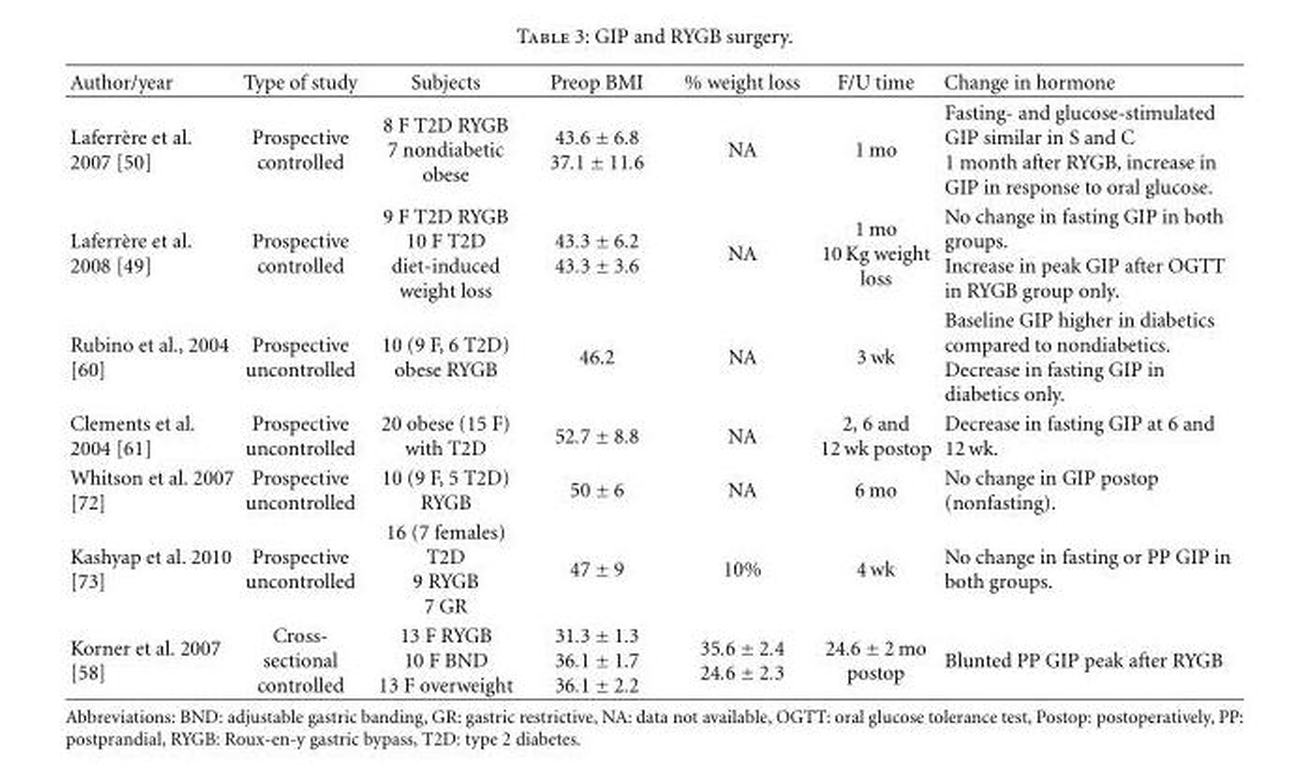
<table><thead><tr><td>Author/year</td><td>Type of study</td><td>Subjects</td><td>Preop BMI</td><td>% weight loss</td><td>F/U time</td><td>Change in hormone</td></tr></thead><tbody><tr><td>Laferr`ere et al. 2007 [50]</td><td>Prospective controlled</td><td>8 F T2D RYGB 7 nondiabetic obese</td><td>43.6 ± 6.8 37.1 ± 11.6</td><td>NA</td><td>1 mo</td><td>Fasting- and glucose-stimulated GIP similar in S and C 1 month after RYGB, increase in GIP in response to oral glucose.</td></tr><tr><td>Laferr`ere et al. 2008 [49]</td><td>Prospective controlled</td><td>9 F T2D RYGB 10 F T2D diet-induced weight loss</td><td>43.3 ± 6.2 43.3 ± 3.6</td><td>NA</td><td>1 mo 10 Kg weight loss</td><td>No change in fasting GIP in both groups. Increase in peak GIP after OGTT in RYGB group only.</td></tr><tr><td>Rubino et al., 2004 [60]</td><td>Prospective uncontrolled</td><td>10 (9 F, 6 T2D) obese RYGB</td><td>46.2</td><td>NA</td><td>3 wk</td><td>Baseline GIP higher in diabetics compared to nondiabetics. Decrease in fasting GIP in diabetics only.</td></tr><tr><td>Clements et al. 2004 [61]</td><td>Prospective uncontrolled</td><td>20 obese (15 F) with T2D</td><td>52.7 ± 8.8</td><td>NA</td><td>2, 6 and 12 wk postop</td><td>Decrease in fasting GIP at 6 and 12 wk.</td></tr><tr><td>Whitson et al. 2007 [72]</td><td>Prospective uncontrolled</td><td>10 (9 F, 5 T2D) RYGB</td><td>50 ± 6</td><td>NA</td><td>6 mo</td><td>No change in GIP postop (nonfasting).</td></tr><tr><td>Kashyap et al. 2010 [73]</td><td>Prospective uncontrolled</td><td>16 (7 females) T2D 9 RYGB 7 GR</td><td>47 ± 9</td><td>10%</td><td>4 wk</td><td>No change in fasting or PP GIP in both groups.</td></tr><tr><td>Korner et al. 2007 [58]</td><td>Cross- sectional controlled</td><td>13 F RYGB 10 F BND 13 F overweight</td><td>31.3 ± 1.3 36.1 ± 1.7 36.1 ± 2.2</td><td>35.6 ± 2.4 24.6 ± 2.3</td><td>24.6 ± 2 mo postop</td><td>Blunted PP GIP peak after RYGB</td></tr></tbody></table>